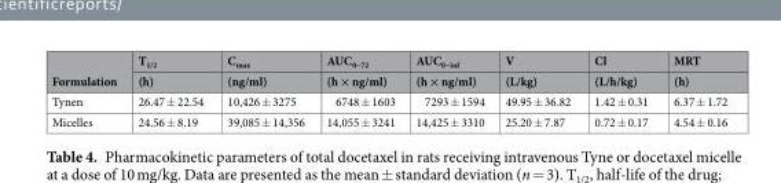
<table><thead><tr><td rowspan="2">Formulation</td><td rowspan="2">T<sub>1/2</sub> (h)</td><td rowspan="2">C<sub>max</sub> (ng/ml)</td><td rowspan="2">AUC<sub>0~72</sub> (h × ng/ml)</td><td rowspan="2">AUC<sub>0~inf</sub> (h × ng/ml)</td><td rowspan="2">V (L/kg)</td><td rowspan="2">Cl (L/h/kg)</td><td rowspan="2">MRT (h)</td></tr><tr></tr></thead><tbody><tr><td>Tynen</td><td>26.47 ± 22.54</td><td>10,426 ± 3275</td><td>6748 ± 1603</td><td>7293 ± 1594</td><td>49.95 ± 36.82</td><td>1.42 ± 0.31</td><td>6.37 ± 1.72</td></tr><tr><td>Micelles</td><td>24.56 ± 8.19</td><td>39,085 ± 14,356</td><td>14,055 ± 3241</td><td>14,425 ± 3310</td><td>25.20 ± 7.87</td><td>0.72 ± 0.17</td><td>4.54 ± 0.16</td></tr></tbody></table>